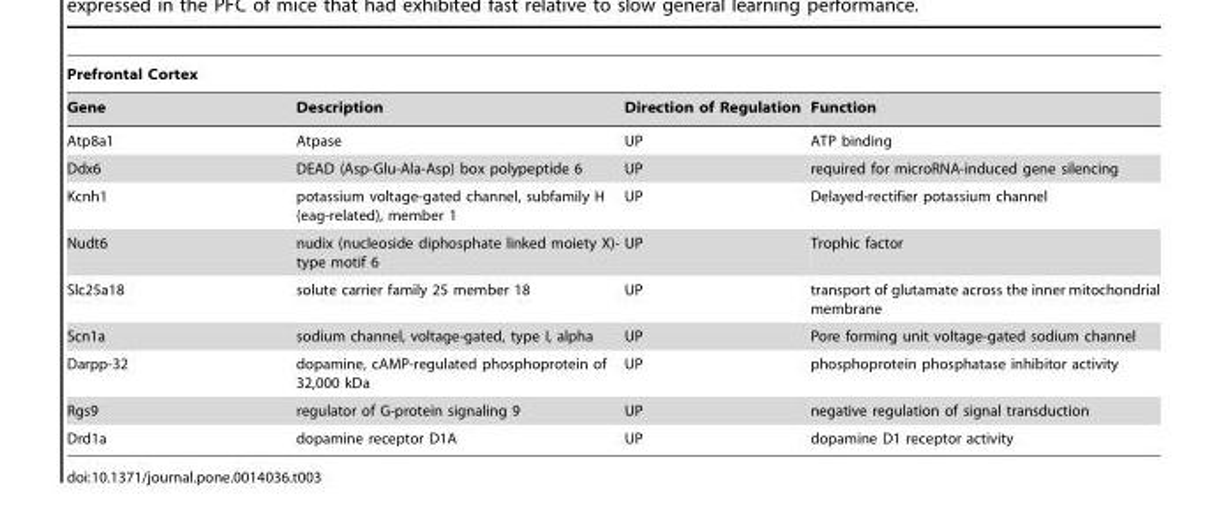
<table><thead><tr><td colspan="4">Prefrontal Cortex</td></tr><tr><td>Gene</td><td>Description</td><td>Direction of Regulation</td><td>Function</td></tr></thead><tbody><tr><td>Atp8a1</td><td>Atpase</td><td>UP</td><td>ATP binding</td></tr><tr><td>Ddx6</td><td>DEAD (Asp-Glu-Ala-Asp) box polypeptide 6</td><td>UP</td><td>required for microRNA-induced gene silencing</td></tr><tr><td>Kcnh1</td><td>potassium voltage-gated channel, subfamily H (eag-related), member 1</td><td>UP</td><td>Delayed-rectifier potassium channel</td></tr><tr><td>Nudt6</td><td>nudix (nucleoside diphosphate linked moiety X)- type motif 6</td><td>UP</td><td>Trophic factor</td></tr><tr><td>Slc25a18</td><td>solute carrier family 25 member 18</td><td>UP</td><td>transport of glutamate across the inner mitochondrial membrane</td></tr><tr><td>Scn1a</td><td>sodium channel, voltage-gated, type I, alpha</td><td>UP</td><td>Pore forming unit voltage-gated sodium channel</td></tr><tr><td>Darpp-32</td><td>dopamine, cAMP-regulated phosphoprotein of 32,000 kDa</td><td>UP</td><td>phosphoprotein phosphatase inhibitor activity</td></tr><tr><td>Rgs9</td><td>regulator of G-protein signaling 9</td><td>UP</td><td>negative regulation of signal transduction</td></tr><tr><td>Drd1a</td><td>dopamine receptor D1A</td><td>UP</td><td>dopamine D1 receptor activity</td></tr></tbody></table>